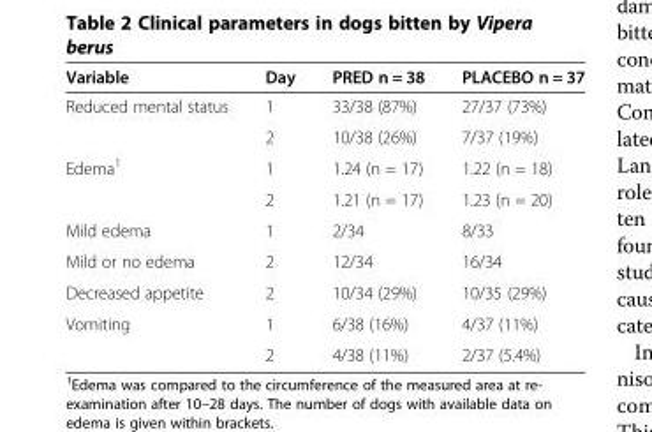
<table><thead><tr><td>Variable</td><td>Day</td><td>PRED n = 38</td><td>PLACEBO n = 37</td></tr></thead><tbody><tr><td rowspan="2">Reduced mental status</td><td>1</td><td>33/38 (87%)</td><td>27/37 (73%)</td></tr><tr><td>2</td><td>10/38 (26%)</td><td>7/37 (19%)</td></tr><tr><td rowspan="2">Edema<sup>1</sup></td><td>1</td><td>1.24 (n = 17)</td><td>1.22 (n = 18)</td></tr><tr><td>2</td><td>1.21 (n = 17)</td><td>1.23 (n = 20)</td></tr><tr><td>Mild edema</td><td>1</td><td>2/34</td><td>8/33</td></tr><tr><td>Mild or no edema</td><td>2</td><td>12/34</td><td>16/34</td></tr><tr><td>Decreased appetite</td><td>2</td><td>10/34 (29%)</td><td>10/35 (29%)</td></tr><tr><td rowspan="2">Vomiting</td><td>1</td><td>6/38 (16%)</td><td>4/37 (11%)</td></tr><tr><td>2</td><td>4/38 (11%)</td><td>2/37 (5.4%)</td></tr></tbody></table>